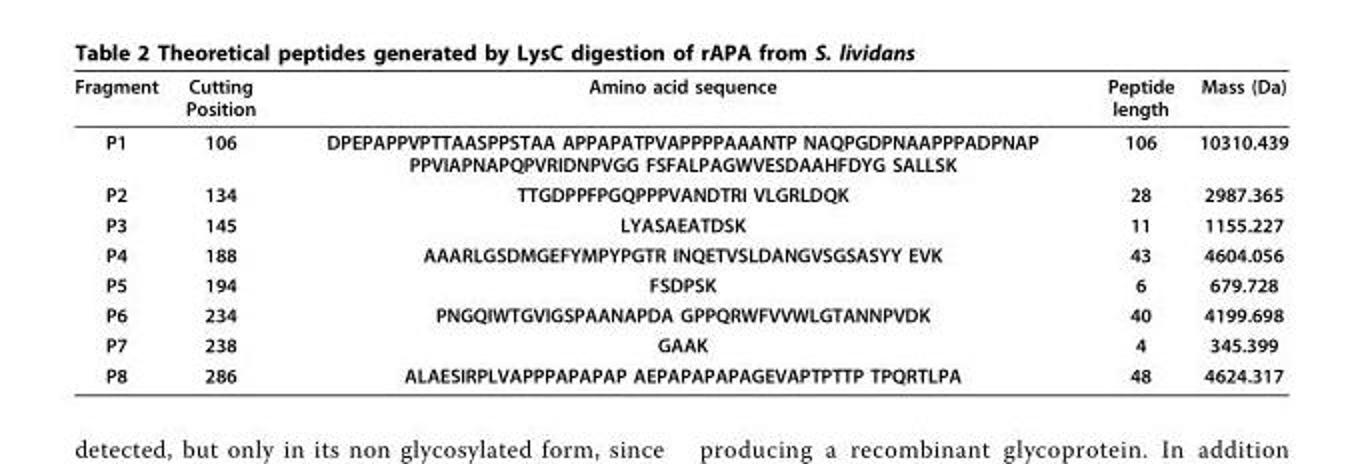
<table><thead><tr><td>Fragment</td><td>Cutting Position</td><td>Amino acid sequence</td><td>Peptide length</td><td>Mass (Da)</td></tr></thead><tbody><tr><td>P1</td><td>106</td><td>DPEPAPPVPTTAASPPSTAA APPAPATPVAPPPPAAANTP NAQPGDPNAAPPPADPNAP PPVIAPNAPQPVRIDNPVGG FSFALPAGWVESDAAHFDYG SALLSK</td><td>106</td><td>10310.439</td></tr><tr><td>P2</td><td>134</td><td>TTGDPPFPGQPPPVANDTRI VLGRLDQK</td><td>28</td><td>2987.365</td></tr><tr><td>P3</td><td>145</td><td>LYASAEATDSK</td><td>11</td><td>1155.227</td></tr><tr><td>P4</td><td>188</td><td>AAARLGSDMGEFYMPYPGTR INQETVSLDANGVSGSASYY EVK</td><td>43</td><td>4604.056</td></tr><tr><td>P5</td><td>194</td><td>FSDPSK</td><td>6</td><td>679.728</td></tr><tr><td>P6</td><td>234</td><td>PNGQIWTGVIGSPAANAPDA GPPQRWFVVWLGTANNPVDK</td><td>40</td><td>4199.698</td></tr><tr><td>P7</td><td>238</td><td>GAAK</td><td>4</td><td>345.399</td></tr><tr><td>P8</td><td>286</td><td>ALAESIRPLVAPPPAPAPAP AEPAPAPAPAGEVAPTPTTP TPQRTLPA</td><td>48</td><td>4624.317</td></tr></tbody></table>